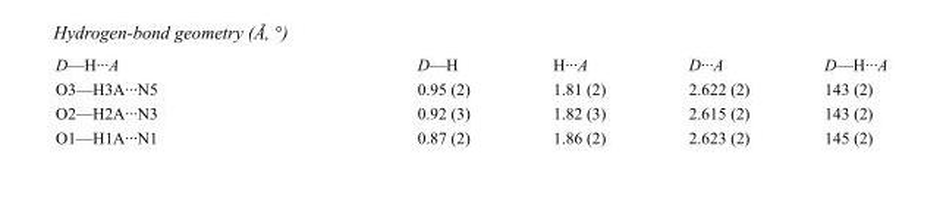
<table><tbody><tr><td>D—H···A</td><td>D—H</td><td>H···A</td><td>D···A</td><td>D—H···A</td></tr><tr><td>O3—H3A···N5</td><td>0.95 (2)</td><td>1.81 (2)</td><td>2.622 (2)</td><td>143 (2)</td></tr><tr><td>O2—H2A···N3</td><td>0.92 (3)</td><td>1.82 (3)</td><td>2.615 (2)</td><td>143 (2)</td></tr><tr><td>O1—H1A···N1</td><td>0.87 (2)</td><td>1.86 (2)</td><td>2.623 (2)</td><td>145 (2)</td></tr></tbody></table>